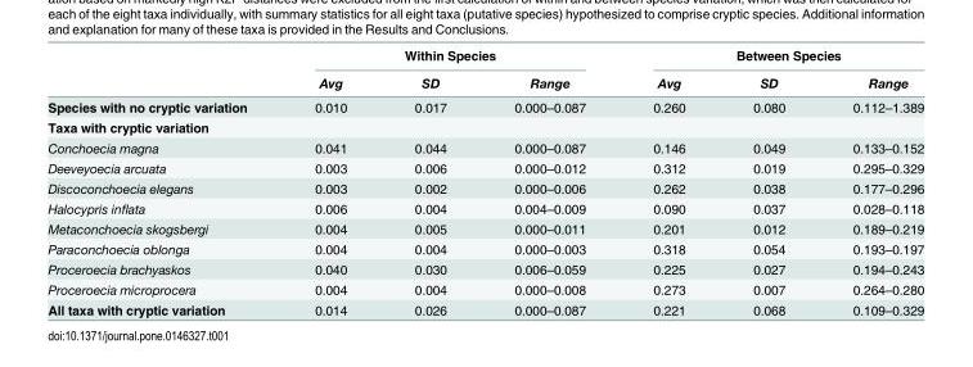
<table><thead><tr><td rowspan="2"></td><td colspan="3">Within Species</td><td colspan="3">Between Species</td></tr><tr><td>Avg</td><td>SD</td><td>Range</td><td>Avg</td><td>SD</td><td>Range</td></tr></thead><tbody><tr><td>Species with no cryptic variation</td><td>0.010</td><td>0.017</td><td>0.000–0.087</td><td>0.260</td><td>0.080</td><td>0.112–1.389</td></tr><tr><td colspan="7">Taxa with cryptic variation</td></tr><tr><td>Conchoecia magna</td><td>0.041</td><td>0.044</td><td>0.000–0.087</td><td>0.146</td><td>0.049</td><td>0.133–0.152</td></tr><tr><td>Deeveyoecia arcuata</td><td>0.003</td><td>0.006</td><td>0.000–0.012</td><td>0.312</td><td>0.019</td><td>0.295–0.329</td></tr><tr><td>Discoconchoecia elegans</td><td>0.003</td><td>0.002</td><td>0.000–0.006</td><td>0.262</td><td>0.038</td><td>0.177–0.296</td></tr><tr><td>Halocypris inflata</td><td>0.006</td><td>0.004</td><td>0.004–0.009</td><td>0.090</td><td>0.037</td><td>0.028–0.118</td></tr><tr><td>Metaconchoecia skogsbergi</td><td>0.004</td><td>0.005</td><td>0.000–0.011</td><td>0.201</td><td>0.012</td><td>0.189–0.219</td></tr><tr><td>Paraconchoecia oblonga</td><td>0.004</td><td>0.004</td><td>0.000–0.003</td><td>0.318</td><td>0.054</td><td>0.193–0.197</td></tr><tr><td>Proceroecia brachyaskos</td><td>0.040</td><td>0.030</td><td>0.006–0.059</td><td>0.225</td><td>0.027</td><td>0.194–0.243</td></tr><tr><td>Proceroecia microprocera</td><td>0.004</td><td>0.004</td><td>0.000–0.008</td><td>0.273</td><td>0.007</td><td>0.264–0.280</td></tr><tr><td>All taxa with cryptic variation</td><td>0.014</td><td>0.026</td><td>0.000–0.087</td><td>0.221</td><td>0.068</td><td>0.109–0.329</td></tr></tbody></table>